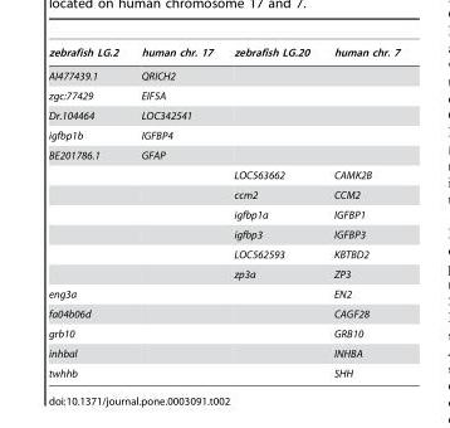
<table><thead><tr><td>zebrafish LG.2</td><td>human chr. 17</td><td>zebrafish LG.20</td><td>human chr. 7</td></tr></thead><tbody><tr><td>AI477439.1</td><td>QRICH2</td><td></td><td></td></tr><tr><td>zgc:77429</td><td>EIF5A</td><td></td><td></td></tr><tr><td>Dr.104464</td><td>LOC342541</td><td></td><td></td></tr><tr><td>igfbp1b</td><td>IGFBP4</td><td></td><td></td></tr><tr><td rowspan="7">BE201786.1</td><td>GFAP</td><td></td><td></td></tr><tr><td></td><td>LOC563662</td><td>CAMK2B</td></tr><tr><td></td><td>ccm2</td><td>CCM2</td></tr><tr><td></td><td>igfbp1a</td><td>IGFBP1</td></tr><tr><td></td><td>igfbp3</td><td>IGFBP3</td></tr><tr><td></td><td>LOC562593</td><td>KBTBD2</td></tr><tr><td></td><td>zp3a</td><td>ZP3</td></tr><tr><td>eng3a</td><td></td><td></td><td>EN2</td></tr><tr><td>fa04b06d</td><td></td><td></td><td>CAGF28</td></tr><tr><td>grb10</td><td></td><td></td><td>GRB10</td></tr><tr><td>inhbal</td><td></td><td></td><td>INHBA</td></tr><tr><td>twhhb</td><td></td><td></td><td>SHH</td></tr></tbody></table>